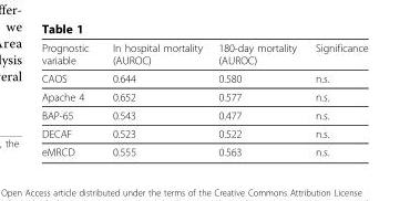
<table><thead><tr><td>Prognostic variable</td><td>In hospital mortality (AUROC)</td><td>180-day mortality (AUROC)</td><td>Significance</td></tr></thead><tbody><tr><td>CAOS</td><td>0.644</td><td>0.580</td><td>n.s.</td></tr><tr><td>Apache 4</td><td>0.652</td><td>0.577</td><td>n.s.</td></tr><tr><td>BAP-65</td><td>0.543</td><td>0.477</td><td>n.s.</td></tr><tr><td>DECAF</td><td>0.523</td><td>0.522</td><td>n.s.</td></tr><tr><td>eMRCD</td><td>0.555</td><td>0.563</td><td>n.s.</td></tr></tbody></table>